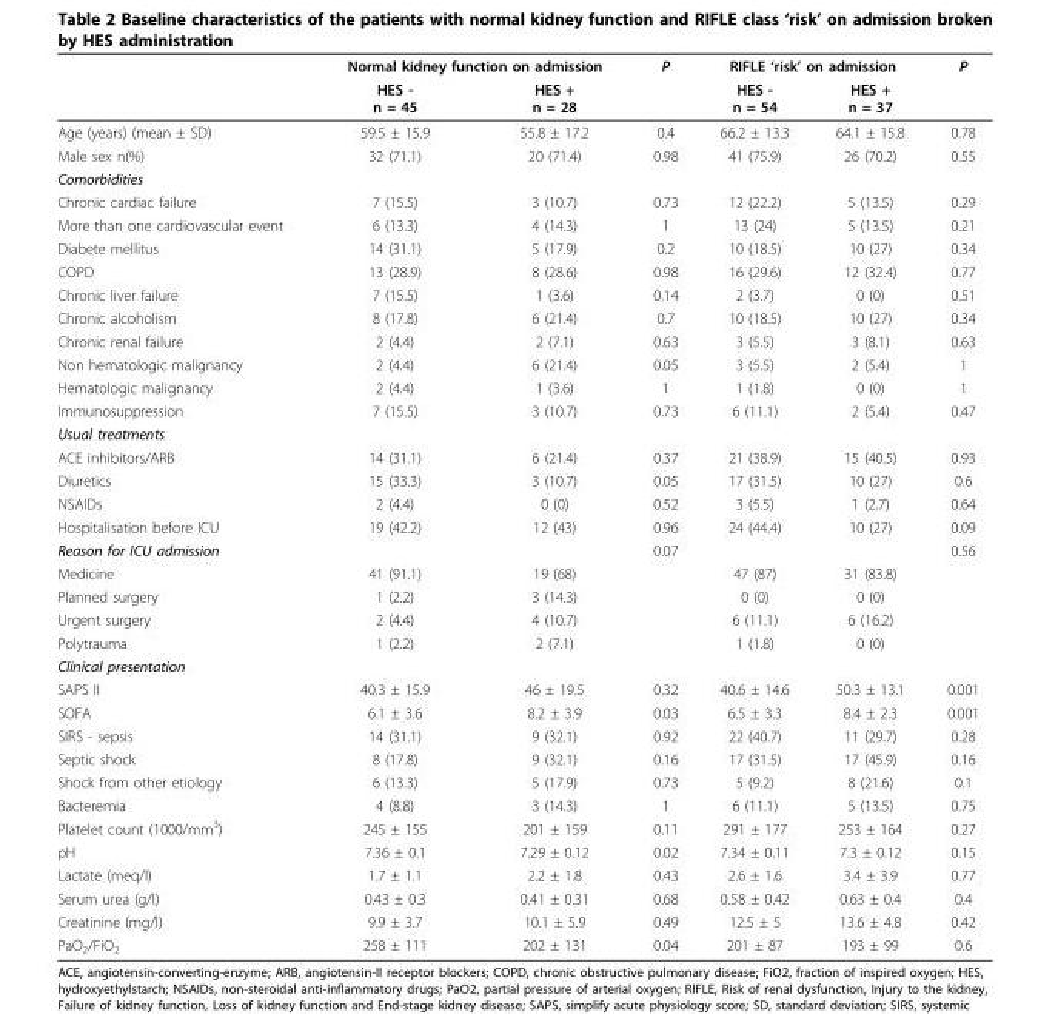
<table><thead><tr><td rowspan="2"></td><td colspan="2">Normal kidney function on admission</td><td rowspan="2">P</td><td colspan="2">RIFLE ‘risk’ on admission</td><td rowspan="2">P</td></tr><tr><td>HES - n = 45</td><td>HES + n = 28</td><td>HES - n = 54</td><td>HES + n = 37</td></tr></thead><tbody><tr><td>Age (years) (mean ± SD)</td><td>59.5 ± 15.9</td><td>55.8 ± 17.2</td><td>0.4</td><td>66.2 ± 13.3</td><td>64.1 ± 15.8</td><td>0.78</td></tr><tr><td>Male sex n(%)</td><td>32 (71.1)</td><td>20 (71.4)</td><td>0.98</td><td>41 (75.9)</td><td>26 (70.2)</td><td>0.55</td></tr><tr><td colspan="7">Comorbidities</td></tr><tr><td>Chronic cardiac failure</td><td>7 (15.5)</td><td>3 (10.7)</td><td>0.73</td><td>12 (22.2)</td><td>5 (13.5)</td><td>0.29</td></tr><tr><td>More than one cardiovascular event</td><td>6 (13.3)</td><td>4 (14.3)</td><td>1</td><td>13 (24)</td><td>5 (13.5)</td><td>0.21</td></tr><tr><td>Diabete mellitus</td><td>14 (31.1)</td><td>5 (17.9)</td><td>0.2</td><td>10 (18.5)</td><td>10 (27)</td><td>0.34</td></tr><tr><td>COPD</td><td>13 (28.9)</td><td>8 (28.6)</td><td>0.98</td><td>16 (29.6)</td><td>12 (32.4)</td><td>0.77</td></tr><tr><td>Chronic liver failure</td><td>7 (15.5)</td><td>1 (3.6)</td><td>0.14</td><td>2 (3.7)</td><td>0 (0)</td><td>0.51</td></tr><tr><td>Chronic alcoholism</td><td>8 (17.8)</td><td>6 (21.4)</td><td>0.7</td><td>10 (18.5)</td><td>10 (27)</td><td>0.34</td></tr><tr><td>Chronic renal failure</td><td>2 (4.4)</td><td>2 (7.1)</td><td>0.63</td><td>3 (5.5)</td><td>3 (8.1)</td><td>0.63</td></tr><tr><td>Non hematologic malignancy</td><td>2 (4.4)</td><td>6 (21.4)</td><td>0.05</td><td>3 (5.5)</td><td>2 (5.4)</td><td>1</td></tr><tr><td>Hematologic malignancy</td><td>2 (4.4)</td><td>1 (3.6)</td><td>1</td><td>1 (1.8)</td><td>0 (0)</td><td>1</td></tr><tr><td>Immunosuppression</td><td>7 (15.5)</td><td>3 (10.7)</td><td>0.73</td><td>6 (11.1)</td><td>2 (5.4)</td><td>0.47</td></tr><tr><td colspan="7">Usual treatments</td></tr><tr><td>ACE inhibitors/ARB</td><td>14 (31.1)</td><td>6 (21.4)</td><td>0.37</td><td>21 (38.9)</td><td>15 (40.5)</td><td>0.93</td></tr><tr><td>Diuretics</td><td>15 (33.3)</td><td>3 (10.7)</td><td>0.05</td><td>17 (31.5)</td><td>10 (27)</td><td>0.6</td></tr><tr><td>NSAIDs</td><td>2 (4.4)</td><td>0 (0)</td><td>0.52</td><td>3 (5.5)</td><td>1 (2.7)</td><td>0.64</td></tr><tr><td>Hospitalisation before ICU</td><td>19 (42.2)</td><td>12 (43)</td><td>0.96</td><td>24 (44.4)</td><td>10 (27)</td><td>0.09</td></tr><tr><td>Reason for ICU admission</td><td></td><td></td><td>0.07</td><td></td><td></td><td>0.56</td></tr><tr><td>Medicine</td><td>41 (91.1)</td><td>19 (68)</td><td></td><td>47 (87)</td><td>31 (83.8)</td><td></td></tr><tr><td>Planned surgery</td><td>1 (2.2)</td><td>3 (14.3)</td><td></td><td>0 (0)</td><td>0 (0)</td><td></td></tr><tr><td>Urgent surgery</td><td>2 (4.4)</td><td>4 (10.7)</td><td></td><td>6 (11.1)</td><td>6 (16.2)</td><td></td></tr><tr><td>Polytrauma</td><td>1 (2.2)</td><td>2 (7.1)</td><td></td><td>1 (1.8)</td><td>0 (0)</td><td></td></tr><tr><td colspan="7">Clinical presentation</td></tr><tr><td>SAPS II</td><td>40.3 ± 15.9</td><td>46 ± 19.5</td><td>0.32</td><td>40.6 ± 14.6</td><td>50.3 ± 13.1</td><td>0.001</td></tr><tr><td>SOFA</td><td>6.1 ± 3.6</td><td>8.2 ± 3.9</td><td>0.03</td><td>6.5 ± 3.3</td><td>8.4 ± 2.3</td><td>0.001</td></tr><tr><td>SIRS - sepsis</td><td>14 (31.1)</td><td>9 (32.1)</td><td>0.92</td><td>22 (40.7)</td><td>11 (29.7)</td><td>0.28</td></tr><tr><td>Septic shock</td><td>8 (17.8)</td><td>9 (32.1)</td><td>0.16</td><td>17 (31.5)</td><td>17 (45.9)</td><td>0.16</td></tr><tr><td>Shock from other etiology</td><td>6 (13.3)</td><td>5 (17.9)</td><td>0.73</td><td>5 (9.2)</td><td>8 (21.6)</td><td>0.1</td></tr><tr><td>Bacteremia</td><td>4 (8.8)</td><td>3 (14.3)</td><td>1</td><td>6 (11.1)</td><td>5 (13.5)</td><td>0.75</td></tr><tr><td>Platelet count (1000/mm<sup>3</sup>)</td><td>245 ± 155</td><td>201 ± 159</td><td>0.11</td><td>291 ± 177</td><td>253 ± 164</td><td>0.27</td></tr><tr><td>pH</td><td>7.36 ± 0.1</td><td>7.29 ± 0.12</td><td>0.02</td><td>7.34 ± 0.11</td><td>7.3 ± 0.12</td><td>0.15</td></tr><tr><td>Lactate (meq/l)</td><td>1.7 ± 1.1</td><td>2.2 ± 1.8</td><td>0.43</td><td>2.6 ± 1.6</td><td>3.4 ± 3.9</td><td>0.77</td></tr><tr><td>Serum urea (g/l)</td><td>0.43 ± 0.3</td><td>0.41 ± 0.31</td><td>0.68</td><td>0.58 ± 0.42</td><td>0.63 ± 0.4</td><td>0.4</td></tr><tr><td>Creatinine (mg/l)</td><td>9.9 ± 3.7</td><td>10.1 ± 5.9</td><td>0.49</td><td>12.5 ± 5</td><td>13.6 ± 4.8</td><td>0.42</td></tr><tr><td>PaO<sub>2</sub>/FiO<sub>2</sub></td><td>258 ± 111</td><td>202 ± 131</td><td>0.04</td><td>201 ± 87</td><td>193 ± 99</td><td>0.6</td></tr></tbody></table>